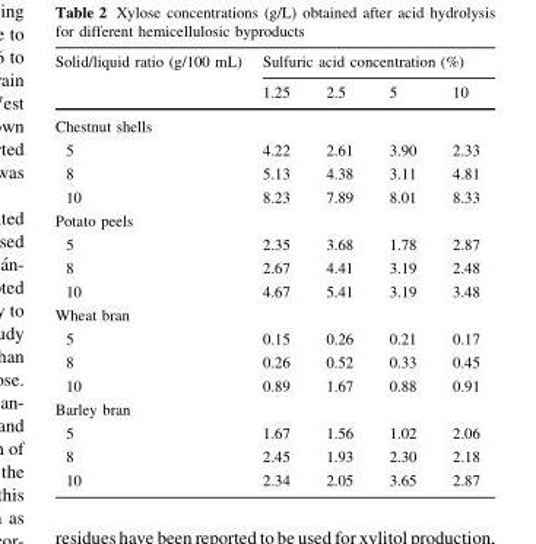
<table><thead><tr><td rowspan="2">Solid/liquid ratio (g/100 mL)</td><td colspan="4">Sulfuric acid concentration (%)</td></tr><tr><td>1.25</td><td>2.5</td><td>5</td><td>10</td></tr></thead><tbody><tr><td colspan="5">Chestnut shells</td></tr><tr><td>5</td><td>4.22</td><td>2.61</td><td>3.90</td><td>2.33</td></tr><tr><td>8</td><td>5.13</td><td>4.38</td><td>3.11</td><td>4.81</td></tr><tr><td>10</td><td>8.23</td><td>7.89</td><td>8.01</td><td>8.33</td></tr><tr><td colspan="5">Potato peels</td></tr><tr><td>5</td><td>2.35</td><td>3.68</td><td>1.78</td><td>2.87</td></tr><tr><td>8</td><td>2.67</td><td>4.41</td><td>3.19</td><td>2.48</td></tr><tr><td>10</td><td>4.67</td><td>5.41</td><td>3.19</td><td>3.48</td></tr><tr><td colspan="5">Wheat bran</td></tr><tr><td>5</td><td>0.15</td><td>0.26</td><td>0.21</td><td>0.17</td></tr><tr><td>8</td><td>0.26</td><td>0.52</td><td>0.33</td><td>0.45</td></tr><tr><td>10</td><td>0.89</td><td>1.67</td><td>0.88</td><td>0.91</td></tr><tr><td colspan="5">Barley bran</td></tr><tr><td>5</td><td>1.67</td><td>1.56</td><td>1.02</td><td>2.06</td></tr><tr><td>8</td><td>2.45</td><td>1.93</td><td>2.30</td><td>2.18</td></tr><tr><td>10</td><td>2.34</td><td>2.05</td><td>3.65</td><td>2.87</td></tr></tbody></table>